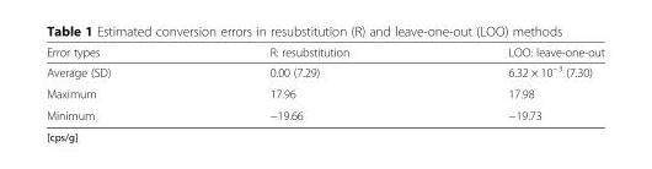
<table><thead><tr><td>Error types</td><td>R: resubstitution</td><td>LOO: leave-one-out</td></tr></thead><tbody><tr><td>Average (SD)</td><td>0.00 (7.29)</td><td>6.32 × 10<sup>−3</sup> (7.30)</td></tr><tr><td>Maximum</td><td>17.96</td><td>17.98</td></tr><tr><td>Minimum</td><td>−19.66</td><td>−19.73</td></tr></tbody></table>